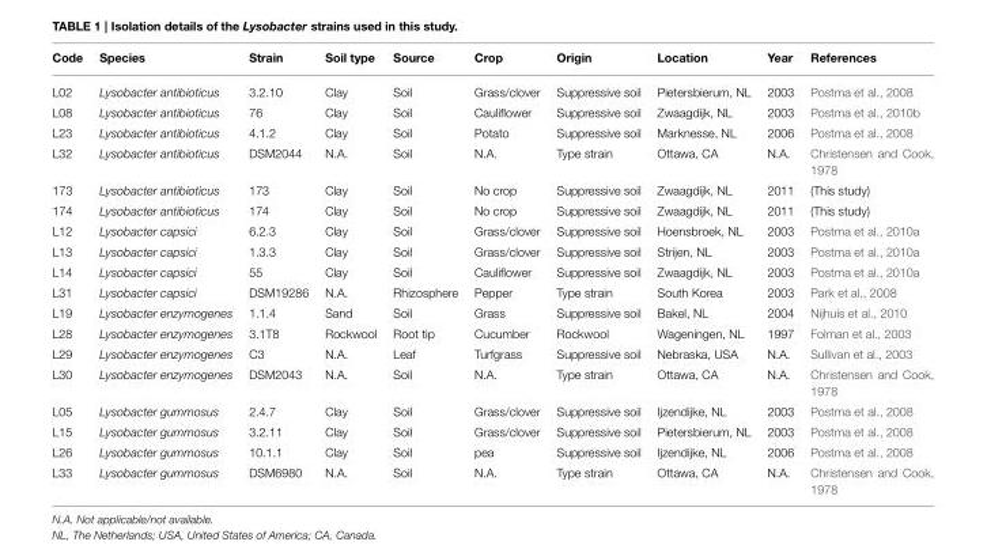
<table><thead><tr><td>Code</td><td>Species</td><td>Strain</td><td>Soil type</td><td>Source</td><td>Crop</td><td>Origin</td><td>Location</td><td>Year</td><td>References</td></tr></thead><tbody><tr><td>L02</td><td>Lysobacter antibioticus</td><td>3.2.10</td><td>Clay</td><td>Soil</td><td>Grass/clover</td><td>Suppressive soil</td><td>Pietersbierum, NL</td><td>2003</td><td>Postma et al., 2008</td></tr><tr><td>L08</td><td>Lysobacter antibioticus</td><td>76</td><td>Clay</td><td>Soil</td><td>Cauliflower</td><td>Suppressive soil</td><td>Zwaagdijk, NL</td><td>2003</td><td>Postma et al., 2010b</td></tr><tr><td>L23</td><td>Lysobacter antibioticus</td><td>4.1.2</td><td>Clay</td><td>Soil</td><td>Potato</td><td>Suppressive soil</td><td>Marknesse, NL</td><td>2006</td><td>Postma et al., 2008</td></tr><tr><td>L32</td><td>Lysobacter antibioticus</td><td>DSM2044</td><td>N.A.</td><td>Soil</td><td>N.A.</td><td>Type strain</td><td>Ottawa, CA</td><td>N.A.</td><td>Christensen and Cook, 1978</td></tr><tr><td>173</td><td>Lysobacter antibioticus</td><td>173</td><td>Clay</td><td>Soil</td><td>No crop</td><td>Suppressive soil</td><td>Zwaagdijk, NL</td><td>2011</td><td>(This study)</td></tr><tr><td>174</td><td>Lysobacter antibioticus</td><td>174</td><td>Clay</td><td>Soil</td><td>No crop</td><td>Suppressive soil</td><td>Zwaagdijk, NL</td><td>2011</td><td>(This study)</td></tr><tr><td>L12</td><td>Lysobacter capsici</td><td>6.2.3</td><td>Clay</td><td>Soil</td><td>Grass/clover</td><td>Suppressive soil</td><td>Hoensbroek, NL</td><td>2003</td><td>Postma et al., 2010a</td></tr><tr><td>L13</td><td>Lysobacter capsici</td><td>1.3.3</td><td>Clay</td><td>Soil</td><td>Grass/clover</td><td>Suppressive soil</td><td>Strijen, NL</td><td>2003</td><td>Postma et al., 2010a</td></tr><tr><td>L14</td><td>Lysobacter capsici</td><td>55</td><td>Clay</td><td>Soil</td><td>Cauliflower</td><td>Suppressive soil</td><td>Zwaagdijk, NL</td><td>2003</td><td>Postma et al., 2010a</td></tr><tr><td>L31</td><td>Lysobacter capsici</td><td>DSM19286</td><td>N.A.</td><td>Rhizosphere</td><td>Pepper</td><td>Type strain</td><td>South Korea</td><td>2003</td><td>Park et al., 2008</td></tr><tr><td>L19</td><td>Lysobacter enzymogenes</td><td>1.1.4</td><td>Sand</td><td>Soil</td><td>Grass</td><td>Suppressive soil</td><td>Bakel, NL</td><td>2004</td><td>Nijhuis et al., 2010</td></tr><tr><td>L28</td><td>Lysobacter enzymogenes</td><td>3.1T8</td><td>Rockwool</td><td>Root tip</td><td>Cucumber</td><td>Rockwool</td><td>Wageningen, NL</td><td>1997</td><td>Folman et al., 2003</td></tr><tr><td>L29</td><td>Lysobacter enzymogenes</td><td>C3</td><td>N.A.</td><td>Leaf</td><td>Turfgrass</td><td>Suppressive soil</td><td>Nebraska, USA</td><td>N.A.</td><td>Sullivan et al., 2003</td></tr><tr><td>L30</td><td>Lysobacter enzymogenes</td><td>DSM2043</td><td>N.A.</td><td>Soil</td><td>N.A.</td><td>Type strain</td><td>Ottawa, CA</td><td>N.A.</td><td>Christensen and Cook, 1978</td></tr><tr><td>L05</td><td>Lysobacter gummosus</td><td>2.4.7</td><td>Clay</td><td>Soil</td><td>Grass/clover</td><td>Suppressive soil</td><td>Ijzendijke, NL</td><td>2003</td><td>Postma et al., 2008</td></tr><tr><td>L15</td><td>Lysobacter gummosus</td><td>3.2.11</td><td>Clay</td><td>Soil</td><td>Grass/clover</td><td>Suppressive soil</td><td>Pietersbierum, NL</td><td>2003</td><td>Postma et al., 2008</td></tr><tr><td>L26</td><td>Lysobacter gummosus</td><td>10.1.1</td><td>Clay</td><td>Soil</td><td>pea</td><td>Suppressive soil</td><td>Ijzendijke, NL</td><td>2006</td><td>Postma et al., 2008</td></tr><tr><td>L33</td><td>Lysobacter gummosus</td><td>DSM6980</td><td>N.A.</td><td>Soil</td><td>N.A.</td><td>Type strain</td><td>Ottawa, CA</td><td>N.A.</td><td>Christensen and Cook, 1978</td></tr></tbody></table>